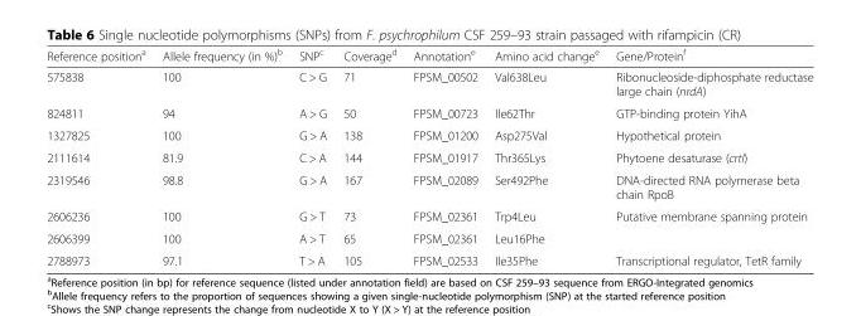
<table><thead><tr><td>Reference position<sup>a</sup></td><td>Allele frequency (in %)<sup>b</sup></td><td>SNP<sup>c</sup></td><td>Coverage<sup>d</sup></td><td>Annotation<sup>e</sup></td><td>Amino acid change<sup>e</sup></td><td>Gene/Protein<sup>f</sup></td></tr></thead><tbody><tr><td>575838</td><td>100</td><td>C &gt; G</td><td>71</td><td>FPSM_00502</td><td>Val638Leu</td><td>Ribonucleoside-diphosphate reductase large chain (nrdA)</td></tr><tr><td>824811</td><td>94</td><td>A &gt; G</td><td>50</td><td>FPSM_00723</td><td>Ile62Thr</td><td>GTP-binding protein YihA</td></tr><tr><td>1327825</td><td>100</td><td>G &gt; A</td><td>138</td><td>FPSM_01200</td><td>Asp275Val</td><td>Hypothetical protein</td></tr><tr><td>2111614</td><td>81.9</td><td>C &gt; A</td><td>144</td><td>FPSM_01917</td><td>Thr365Lys</td><td>Phytoene desaturase (crtI)</td></tr><tr><td>2319546</td><td>98.8</td><td>G &gt; A</td><td>167</td><td>FPSM_02089</td><td>Ser492Phe</td><td>DNA-directed RNA polymerase beta chain RpoB</td></tr><tr><td>2606236</td><td>100</td><td>G &gt; T</td><td>73</td><td>FPSM_02361</td><td>Trp4Leu</td><td rowspan="2">Putative membrane spanning protein</td></tr><tr><td>2606399</td><td>100</td><td>A &gt; T</td><td>65</td><td>FPSM_02361</td><td>Leu16Phe</td></tr><tr><td>2788973</td><td>97.1</td><td>T &gt; A</td><td>105</td><td>FPSM_02533</td><td>Ile35Phe</td><td>Transcriptional regulator, TetR family</td></tr></tbody></table>